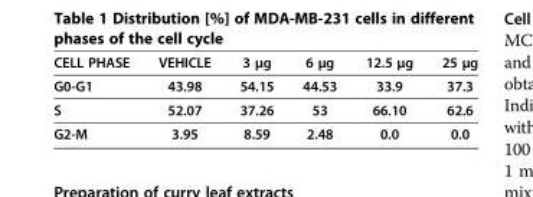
<table><thead><tr><td>CELL PHASE</td><td>VEHICLE</td><td>3 μg</td><td>6 μg</td><td>12.5 μg</td><td>25 μg</td></tr></thead><tbody><tr><td>G0-G1</td><td>43.98</td><td>54.15</td><td>44.53</td><td>33.9</td><td>37.3</td></tr><tr><td>S</td><td>52.07</td><td>37.26</td><td>53</td><td>66.10</td><td>62.6</td></tr><tr><td>G2-M</td><td>3.95</td><td>8.59</td><td>2.48</td><td>0.0</td><td>0.0</td></tr></tbody></table>